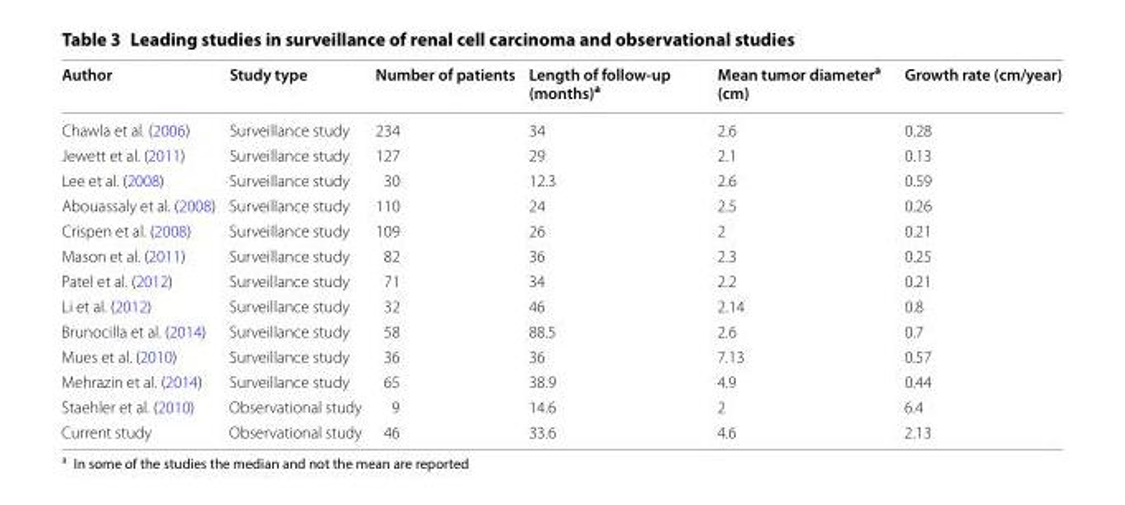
<table><thead><tr><td>Author</td><td>Study type</td><td>Number of patients</td><td>Length of follow-up (months)<sup>a</sup></td><td>Mean tumor diameter<sup>a</sup> (cm)</td><td>Growth rate (cm/year)</td></tr></thead><tbody><tr><td>Chawla et al. (2006)</td><td>Surveillance study</td><td>234</td><td>34</td><td>2.6</td><td>0.28</td></tr><tr><td>Jewett et al. (2011)</td><td>Surveillance study</td><td>127</td><td>29</td><td>2.1</td><td>0.13</td></tr><tr><td>Lee et al. (2008)</td><td>Surveillance study</td><td>30</td><td>12.3</td><td>2.6</td><td>0.59</td></tr><tr><td>Abouassaly et al. (2008)</td><td>Surveillance study</td><td>110</td><td>24</td><td>2.5</td><td>0.26</td></tr><tr><td>Crispen et al. (2008)</td><td>Surveillance study</td><td>109</td><td>26</td><td>2</td><td>0.21</td></tr><tr><td>Mason et al. (2011)</td><td>Surveillance study</td><td>82</td><td>36</td><td>2.3</td><td>0.25</td></tr><tr><td>Patel et al. (2012)</td><td>Surveillance study</td><td>71</td><td>34</td><td>2.2</td><td>0.21</td></tr><tr><td>Li et al. (2012)</td><td>Surveillance study</td><td>32</td><td>46</td><td>2.14</td><td>0.8</td></tr><tr><td>Brunocilla et al. (2014)</td><td>Surveillance study</td><td>58</td><td>88.5</td><td>2.6</td><td>0.7</td></tr><tr><td>Mues et al. (2010)</td><td>Surveillance study</td><td>36</td><td>36</td><td>7.13</td><td>0.57</td></tr><tr><td>Mehrazin et al. (2014)</td><td>Surveillance study</td><td>65</td><td>38.9</td><td>4.9</td><td>0.44</td></tr><tr><td>Staehler et al. (2010)</td><td>Observational study</td><td>9</td><td>14.6</td><td>2</td><td>6.4</td></tr><tr><td>Current study</td><td>Observational study</td><td>46</td><td>33.6</td><td>4.6</td><td>2.13</td></tr></tbody></table>